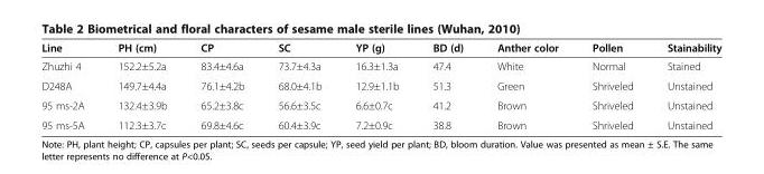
<table><thead><tr><td>Line</td><td>PH (cm)</td><td>CP</td><td>SC</td><td>YP (g)</td><td>BD (d)</td><td>Anther color</td><td>Pollen</td><td>Stainability</td></tr></thead><tbody><tr><td>Zhuzhi 4</td><td>152.2±5.2a</td><td>83.4±4.6a</td><td>73.7±4.3a</td><td>16.3±1.3a</td><td>47.4</td><td>White</td><td>Normal</td><td>Stained</td></tr><tr><td>D248A</td><td>149.7±4.4a</td><td>76.1±4.2b</td><td>68.0±4.1b</td><td>12.9±1.1b</td><td>51.3</td><td>Green</td><td>Shriveled</td><td>Unstained</td></tr><tr><td>95 ms-2A</td><td>132.4±3.9b</td><td>65.2±3.8c</td><td>56.6±3.5c</td><td>6.6±0.7c</td><td>41.2</td><td>Brown</td><td>Shriveled</td><td>Unstained</td></tr><tr><td>95 ms-5A</td><td>112.3±3.7c</td><td>69.8±4.6c</td><td>60.4±3.9c</td><td>7.2±0.9c</td><td>38.8</td><td>Brown</td><td>Shriveled</td><td>Unstained</td></tr></tbody></table>